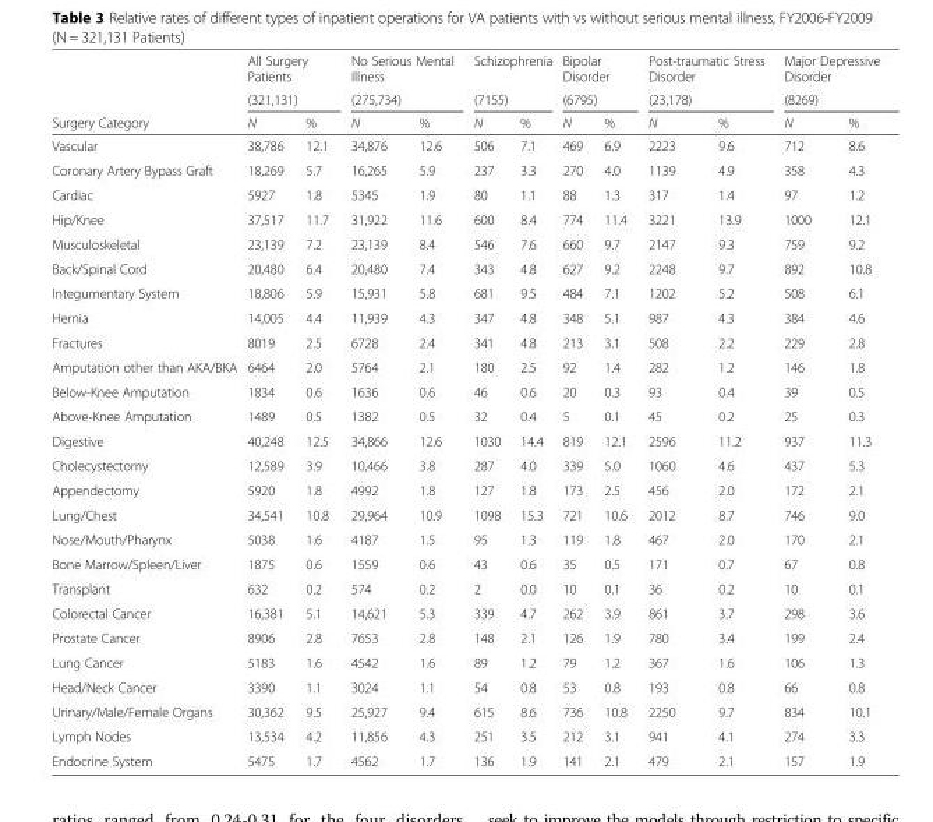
<table><thead><tr><td rowspan="3">Surgery Category</td><td rowspan="2" colspan="2">All Surgery Patients (321,131)</td><td rowspan="2" colspan="2">No Serious Mental Illness (275,734)</td><td rowspan="2" colspan="2">Schizophrenia (7155)</td><td rowspan="2" colspan="2">Bipolar Disorder (6795)</td><td rowspan="2" colspan="2">Post-traumatic Stress Disorder (23,178)</td><td rowspan="2" colspan="2">Major Depressive Disorder (8269)</td></tr><tr></tr><tr><td>N</td><td>%</td><td>N</td><td>%</td><td>N</td><td>%</td><td>N</td><td>%</td><td>N</td><td>%</td><td>N</td><td>%</td></tr></thead><tbody><tr><td>Vascular</td><td>38,786</td><td>12.1</td><td>34,876</td><td>12.6</td><td>506</td><td>7.1</td><td>469</td><td>6.9</td><td>2223</td><td>9.6</td><td>712</td><td>8.6</td></tr><tr><td>Coronary Artery Bypass Graft</td><td>18,269</td><td>5.7</td><td>16,265</td><td>5.9</td><td>237</td><td>3.3</td><td>270</td><td>4.0</td><td>1139</td><td>4.9</td><td>358</td><td>4.3</td></tr><tr><td>Cardiac</td><td>5927</td><td>1.8</td><td>5345</td><td>1.9</td><td>80</td><td>1.1</td><td>88</td><td>1.3</td><td>317</td><td>1.4</td><td>97</td><td>1.2</td></tr><tr><td>Hip/Knee</td><td>37,517</td><td>11.7</td><td>31,922</td><td>11.6</td><td>600</td><td>8.4</td><td>774</td><td>11.4</td><td>3221</td><td>13.9</td><td>1000</td><td>12.1</td></tr><tr><td>Musculoskeletal</td><td>23,139</td><td>7.2</td><td>23,139</td><td>8.4</td><td>546</td><td>7.6</td><td>660</td><td>9.7</td><td>2147</td><td>9.3</td><td>759</td><td>9.2</td></tr><tr><td>Back/Spinal Cord</td><td>20,480</td><td>6.4</td><td>20,480</td><td>7.4</td><td>343</td><td>4.8</td><td>627</td><td>9.2</td><td>2248</td><td>9.7</td><td>892</td><td>10.8</td></tr><tr><td>Integumentary System</td><td>18,806</td><td>5.9</td><td>15,931</td><td>5.8</td><td>681</td><td>9.5</td><td>484</td><td>7.1</td><td>1202</td><td>5.2</td><td>508</td><td>6.1</td></tr><tr><td>Hernia</td><td>14,005</td><td>4.4</td><td>11,939</td><td>4.3</td><td>347</td><td>4.8</td><td>348</td><td>5.1</td><td>987</td><td>4.3</td><td>384</td><td>4.6</td></tr><tr><td>Fractures</td><td>8019</td><td>2.5</td><td>6728</td><td>2.4</td><td>341</td><td>4.8</td><td>213</td><td>3.1</td><td>508</td><td>2.2</td><td>229</td><td>2.8</td></tr><tr><td>Amputation other than AKA/BKA</td><td>6464</td><td>2.0</td><td>5764</td><td>2.1</td><td>180</td><td>2.5</td><td>92</td><td>1.4</td><td>282</td><td>1.2</td><td>146</td><td>1.8</td></tr><tr><td>Below-Knee Amputation</td><td>1834</td><td>0.6</td><td>1636</td><td>0.6</td><td>46</td><td>0.6</td><td>20</td><td>0.3</td><td>93</td><td>0.4</td><td>39</td><td>0.5</td></tr><tr><td>Above-Knee Amputation</td><td>1489</td><td>0.5</td><td>1382</td><td>0.5</td><td>32</td><td>0.4</td><td>5</td><td>0.1</td><td>45</td><td>0.2</td><td>25</td><td>0.3</td></tr><tr><td>Digestive</td><td>40,248</td><td>12.5</td><td>34,866</td><td>12.6</td><td>1030</td><td>14.4</td><td>819</td><td>12.1</td><td>2596</td><td>11.2</td><td>937</td><td>11.3</td></tr><tr><td>Cholecystectomy</td><td>12,589</td><td>3.9</td><td>10,466</td><td>3.8</td><td>287</td><td>4.0</td><td>339</td><td>5.0</td><td>1060</td><td>4.6</td><td>437</td><td>5.3</td></tr><tr><td>Appendectomy</td><td>5920</td><td>1.8</td><td>4992</td><td>1.8</td><td>127</td><td>1.8</td><td>173</td><td>2.5</td><td>456</td><td>2.0</td><td>172</td><td>2.1</td></tr><tr><td>Lung/Chest</td><td>34,541</td><td>10.8</td><td>29,964</td><td>10.9</td><td>1098</td><td>15.3</td><td>721</td><td>10.6</td><td>2012</td><td>8.7</td><td>746</td><td>9.0</td></tr><tr><td>Nose/Mouth/Pharynx</td><td>5038</td><td>1.6</td><td>4187</td><td>1.5</td><td>95</td><td>1.3</td><td>119</td><td>1.8</td><td>467</td><td>2.0</td><td>170</td><td>2.1</td></tr><tr><td>Bone Marrow/Spleen/Liver</td><td>1875</td><td>0.6</td><td>1559</td><td>0.6</td><td>43</td><td>0.6</td><td>35</td><td>0.5</td><td>171</td><td>0.7</td><td>67</td><td>0.8</td></tr><tr><td>Transplant</td><td>632</td><td>0.2</td><td>574</td><td>0.2</td><td>2</td><td>0.0</td><td>10</td><td>0.1</td><td>36</td><td>0.2</td><td>10</td><td>0.1</td></tr><tr><td>Colorectal Cancer</td><td>16,381</td><td>5.1</td><td>14,621</td><td>5.3</td><td>339</td><td>4.7</td><td>262</td><td>3.9</td><td>861</td><td>3.7</td><td>298</td><td>3.6</td></tr><tr><td>Prostate Cancer</td><td>8906</td><td>2.8</td><td>7653</td><td>2.8</td><td>148</td><td>2.1</td><td>126</td><td>1.9</td><td>780</td><td>3.4</td><td>199</td><td>2.4</td></tr><tr><td>Lung Cancer</td><td>5183</td><td>1.6</td><td>4542</td><td>1.6</td><td>89</td><td>1.2</td><td>79</td><td>1.2</td><td>367</td><td>1.6</td><td>106</td><td>1.3</td></tr><tr><td>Head/Neck Cancer</td><td>3390</td><td>1.1</td><td>3024</td><td>1.1</td><td>54</td><td>0.8</td><td>53</td><td>0.8</td><td>193</td><td>0.8</td><td>66</td><td>0.8</td></tr><tr><td>Urinary/Male/Female Organs</td><td>30,362</td><td>9.5</td><td>25,927</td><td>9.4</td><td>615</td><td>8.6</td><td>736</td><td>10.8</td><td>2250</td><td>9.7</td><td>834</td><td>10.1</td></tr><tr><td>Lymph Nodes</td><td>13,534</td><td>4.2</td><td>11,856</td><td>4.3</td><td>251</td><td>3.5</td><td>212</td><td>3.1</td><td>941</td><td>4.1</td><td>274</td><td>3.3</td></tr><tr><td>Endocrine System</td><td>5475</td><td>1.7</td><td>4562</td><td>1.7</td><td>136</td><td>1.9</td><td>141</td><td>2.1</td><td>479</td><td>2.1</td><td>157</td><td>1.9</td></tr></tbody></table>